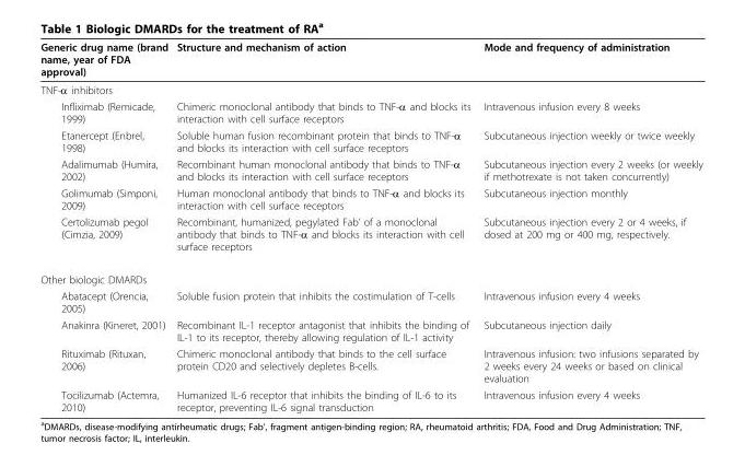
<table><thead><tr><td>Generic drug name (brand name, year of FDA approval)</td><td>Structure and mechanism of action</td><td>Mode and frequency of administration</td></tr></thead><tbody><tr><td colspan="3">TNF-α inhibitors</td></tr><tr><td>Infliximab (Remicade, 1999)</td><td>Chimeric monoclonal antibody that binds to TNF-α and blocks its interaction with cell surface receptors</td><td>Intravenous infusion every 8 weeks</td></tr><tr><td>Etanercept (Enbrel, 1998)</td><td>Soluble human fusion recombinant protein that binds to TNF-α and blocks its interaction with cell surface receptors</td><td>Subcutaneous injection weekly or twice weekly</td></tr><tr><td>Adalimumab (Humira, 2002)</td><td>Recombinant human monoclonal antibody that binds to TNF-α and blocks its interaction with cell surface receptors</td><td>Subcutaneous injection every 2 weeks (or weekly if methotrexate is not taken concurrently)</td></tr><tr><td>Golimumab (Simponi, 2009)</td><td>Human monoclonal antibody that binds to TNF-α and blocks its interaction with cell surface receptors</td><td>Subcutaneous injection monthly</td></tr><tr><td>Certolizumab pegol (Cimzia, 2009)</td><td>Recombinant, humanized, pegylated Fab’ of a monoclonal antibody that binds to TNF-α and blocks its interaction with cell surface receptors</td><td>Subcutaneous injection every 2 or 4 weeks, if dosed at 200 mg or 400 mg, respectively.</td></tr><tr><td colspan="3">Other biologic DMARDs</td></tr><tr><td>Abatacept (Orencia, 2005)</td><td>Soluble fusion protein that inhibits the costimulation of T-cells</td><td>Intravenous infusion every 4 weeks</td></tr><tr><td>Anakinra (Kineret, 2001)</td><td>Recombinant IL-1 receptor antagonist that inhibits the binding of IL-1 to its receptor, thereby allowing regulation of IL-1 activity</td><td>Subcutaneous injection daily</td></tr><tr><td>Rituximab (Rituxan, 2006)</td><td>Chimeric monoclonal antibody that binds to the cell surface protein CD20 and selectively depletes B-cells.</td><td>Intravenous infusion: two infusions separated by 2 weeks every 24 weeks or based on clinical evaluation</td></tr><tr><td>Tocilizumab (Actemra, 2010)</td><td>Humanized IL-6 receptor that inhibits the binding of IL-6 to its receptor, preventing IL-6 signal transduction</td><td>Intravenous infusion every 4 weeks</td></tr></tbody></table>